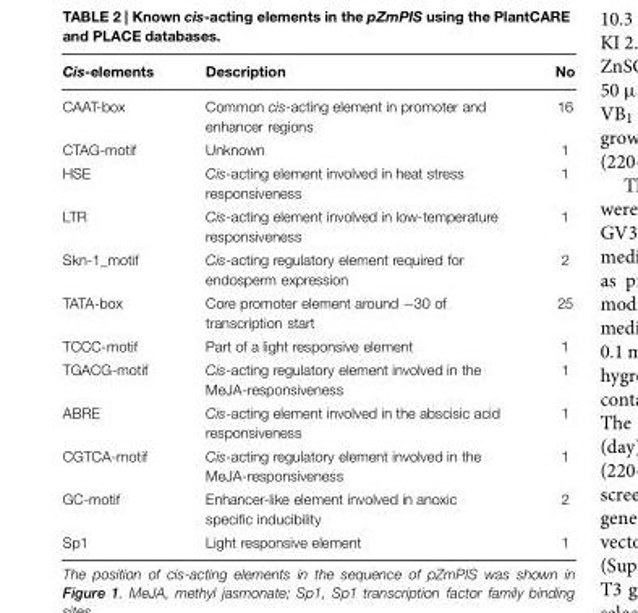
<table><thead><tr><td>Cis-elements</td><td>Description</td><td>No</td></tr></thead><tbody><tr><td>CAAT-box</td><td>Common cis-acting element in promoter and enhancer regions</td><td>16</td></tr><tr><td>CTAG-motif</td><td>Unknown</td><td>1</td></tr><tr><td>HSE</td><td>Cis-acting element involved in heat stress responsiveness</td><td>1</td></tr><tr><td>LTR</td><td>Cis-acting element involved in low-temperature responsiveness</td><td>1</td></tr><tr><td>Skn-1_motif</td><td>Cis-acting regulatory element required for endosperm expression</td><td>2</td></tr><tr><td>TATA-box</td><td>Core promoter element around −30 of transcription start</td><td>25</td></tr><tr><td>TCCC-motif</td><td>Part of a light responsive element</td><td>1</td></tr><tr><td>TGACG-motif</td><td>Cis-acting regulatory element involved in the MeJA-responsiveness</td><td>1</td></tr><tr><td>ABRE</td><td>Cis-acting element involved in the abscisic acid responsiveness</td><td>1</td></tr><tr><td>CGTCA-motif</td><td>Cis-acting regulatory element involved in the MeJA-responsiveness</td><td>1</td></tr><tr><td>GC-motif</td><td>Enhancer-like element involved in anoxic specific inducibility</td><td>2</td></tr><tr><td>Sp1</td><td>Light responsive element</td><td>1</td></tr></tbody></table>